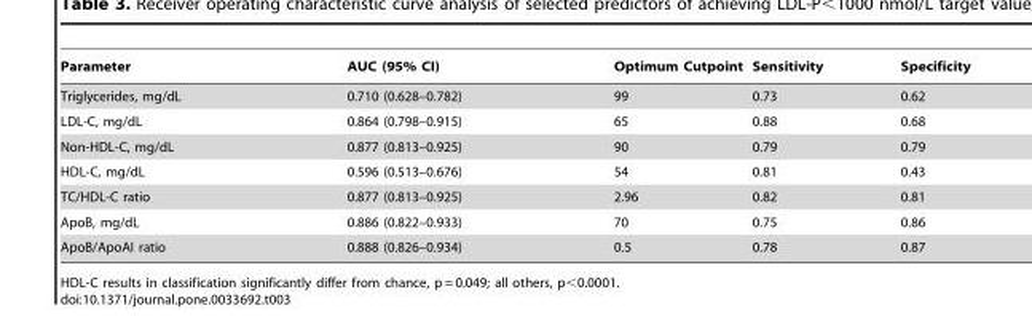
<table><thead><tr><td>Parameter</td><td>AUC (95% CI)</td><td>Optimum Cutpoint</td><td>Sensitivity</td><td>Specificity</td></tr></thead><tbody><tr><td>Triglycerides, mg/dL</td><td>0.710 (0.628–0.782)</td><td>99</td><td>0.73</td><td>0.62</td></tr><tr><td>LDL-C, mg/dL</td><td>0.864 (0.798–0.915)</td><td>65</td><td>0.88</td><td>0.68</td></tr><tr><td>Non-HDL-C, mg/dL</td><td>0.877 (0.813–0.925)</td><td>90</td><td>0.79</td><td>0.79</td></tr><tr><td>HDL-C, mg/dL</td><td>0.596 (0.513–0.676)</td><td>54</td><td>0.81</td><td>0.43</td></tr><tr><td>TC/HDL-C ratio</td><td>0.877 (0.813–0.925)</td><td>2.96</td><td>0.82</td><td>0.81</td></tr><tr><td>ApoB, mg/dL</td><td>0.886 (0.822–0.933)</td><td>70</td><td>0.75</td><td>0.86</td></tr><tr><td>ApoB/ApoAI ratio</td><td>0.888 (0.826–0.934)</td><td>0.5</td><td>0.78</td><td>0.87</td></tr></tbody></table>